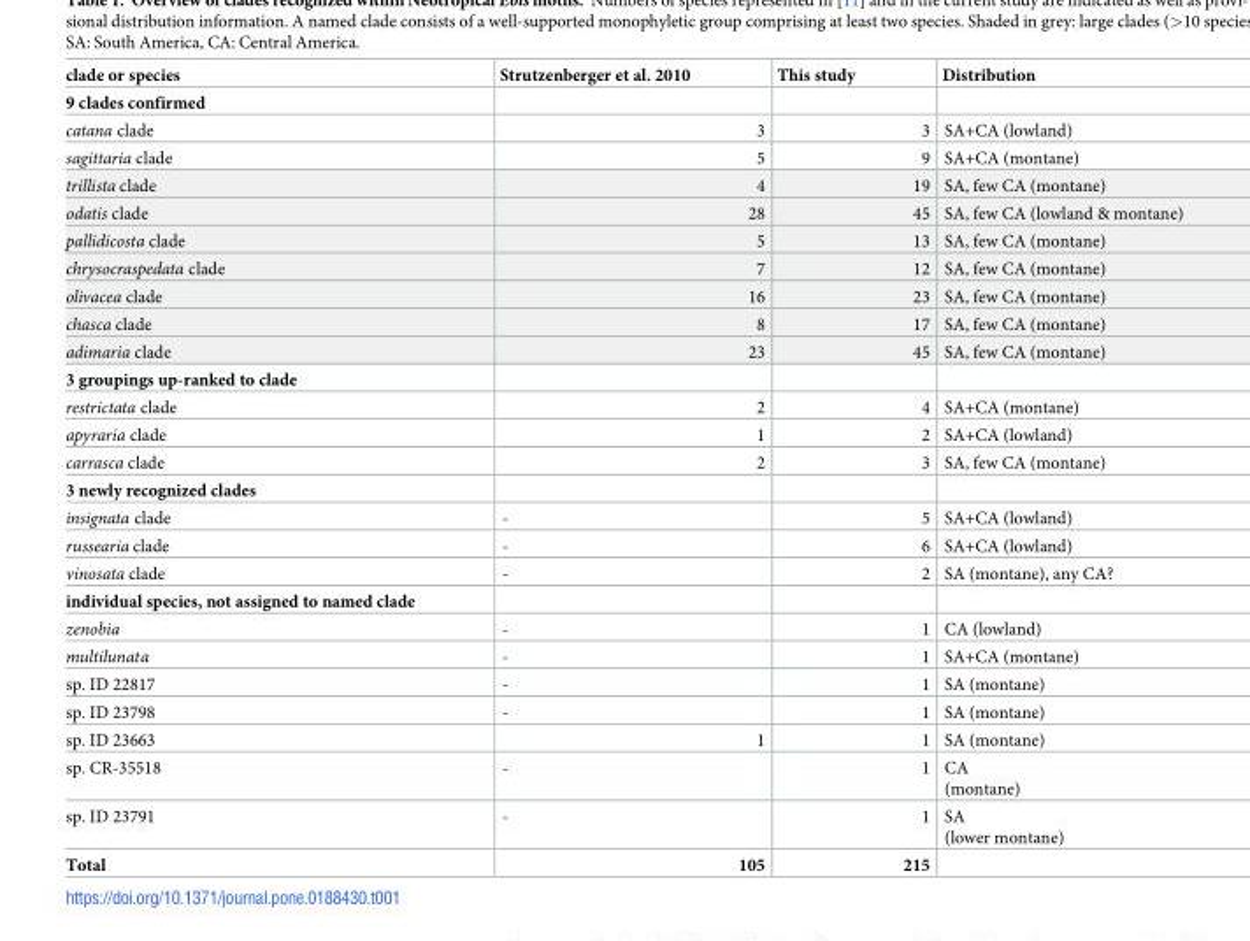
<table><thead><tr><td>clade or species</td><td>Strutzenberger et al. 2010</td><td>This study</td><td>Distribution</td></tr></thead><tbody><tr><td colspan="4">9 clades confirmed</td></tr><tr><td>catana clade</td><td>3</td><td>3</td><td>SA+CA (lowland)</td></tr><tr><td>sagittaria clade</td><td>5</td><td>9</td><td>SA+CA (montane)</td></tr><tr><td>trillista clade</td><td>4</td><td>19</td><td>SA, few CA (montane)</td></tr><tr><td>odatis clade</td><td>28</td><td>45</td><td>SA, few CA (lowland &amp; montane)</td></tr><tr><td>pallidicosta clade</td><td>5</td><td>13</td><td>SA, few CA (montane)</td></tr><tr><td>chrysocraspedata clade</td><td>7</td><td>12</td><td>SA, few CA (montane)</td></tr><tr><td>olivacea clade</td><td>16</td><td>23</td><td>SA, few CA (montane)</td></tr><tr><td>chasca clade</td><td>8</td><td>17</td><td>SA, few CA (montane)</td></tr><tr><td>adimaria clade</td><td>23</td><td>45</td><td>SA, few CA (montane)</td></tr><tr><td colspan="4">3 groupings up-ranked to clade</td></tr><tr><td>restrictata clade</td><td>2</td><td>4</td><td>SA+CA (montane)</td></tr><tr><td>apyraria clade</td><td>1</td><td>2</td><td>SA+CA (lowland)</td></tr><tr><td>carrasca clade</td><td>2</td><td>3</td><td>SA, few CA (montane)</td></tr><tr><td colspan="4">3 newly recognized clades</td></tr><tr><td>insignata clade</td><td>-</td><td>5</td><td>SA+CA (lowland)</td></tr><tr><td>russearia clade</td><td>-</td><td>6</td><td>SA+CA (lowland)</td></tr><tr><td>vinosata clade</td><td>-</td><td>2</td><td>SA (montane), any CA?</td></tr><tr><td colspan="4">individual species, not assigned to named clade</td></tr><tr><td>zenobia</td><td>-</td><td>1</td><td>CA (lowland)</td></tr><tr><td>multilunata</td><td>-</td><td>1</td><td>SA+CA (montane)</td></tr><tr><td>sp. ID 22817</td><td>-</td><td>1</td><td>SA (montane)</td></tr><tr><td>sp. ID 23798</td><td>-</td><td>1</td><td>SA (montane)</td></tr><tr><td>sp. ID 23663</td><td>1</td><td>1</td><td>SA (montane)</td></tr><tr><td>sp. CR-35518</td><td>-</td><td>1</td><td>CA (montane)</td></tr><tr><td>sp. ID 23791</td><td>-</td><td>1</td><td>SA (lower montane)</td></tr><tr><td>Total</td><td>105</td><td>215</td><td></td></tr></tbody></table>